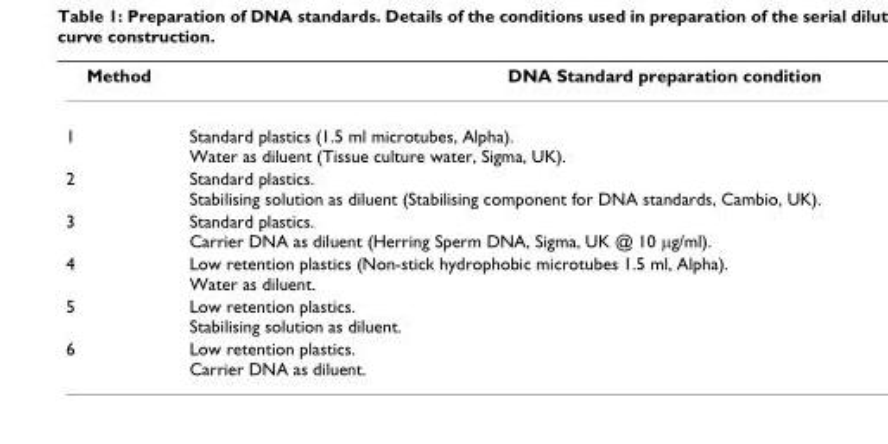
<table><thead><tr><td>Method</td><td>DNA Standard preparation condition</td></tr></thead><tbody><tr><td>1</td><td>Standard plastics (1.5 ml microtubes, Alpha). Water as diluent (Tissue culture water, Sigma, UK).</td></tr><tr><td>2</td><td>Standard plastics. Stabilising solution as diluent (Stabilising component for DNA standards, Cambio, UK).</td></tr><tr><td>3</td><td>Standard plastics. Carrier DNA as diluent (Herring Sperm DNA, Sigma, UK @ 10 μg/ml).</td></tr><tr><td>4</td><td>Low retention plastics (Non-stick hydrophobic microtubes 1.5 ml, Alpha). Water as diluent.</td></tr><tr><td>5</td><td>Low retention plastics. Stabilising solution as diluent.</td></tr><tr><td>6</td><td>Low retention plastics. Carrier DNA as diluent.</td></tr></tbody></table>